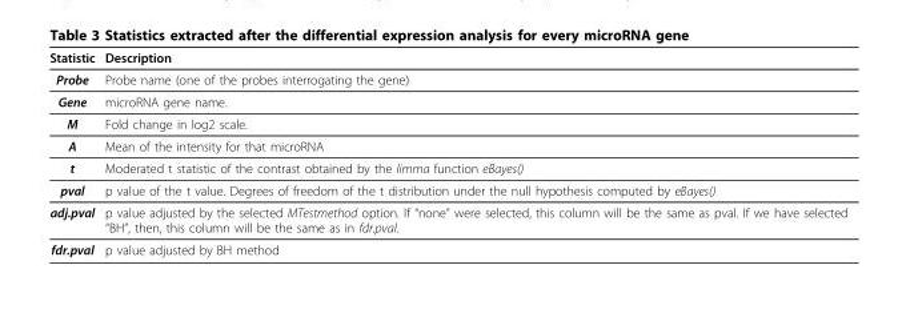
<table><thead><tr><td>Statistic</td><td>Description</td></tr></thead><tbody><tr><td>Probe</td><td>Probe name (one of the probes interrogating the gene)</td></tr><tr><td>Gene</td><td>microRNA gene name.</td></tr><tr><td>M</td><td>Fold change in log2 scale.</td></tr><tr><td>A</td><td>Mean of the intensity for that microRNA</td></tr><tr><td>t</td><td>Moderated t statistic of the contrast obtained by the limma function eBayes()</td></tr><tr><td>pval</td><td>p value of the t value. Degrees of freedom of the t distribution under the null hypothesis computed by eBayes()</td></tr><tr><td>adj.pval</td><td>p value adjusted by the selected MTestmethod option. If “none” were selected, this column will be the same as pval. If we have selected “BH”, then, this column will be the same as in fdr.pval.</td></tr><tr><td>fdr.pval</td><td>p value adjusted by BH method</td></tr></tbody></table>